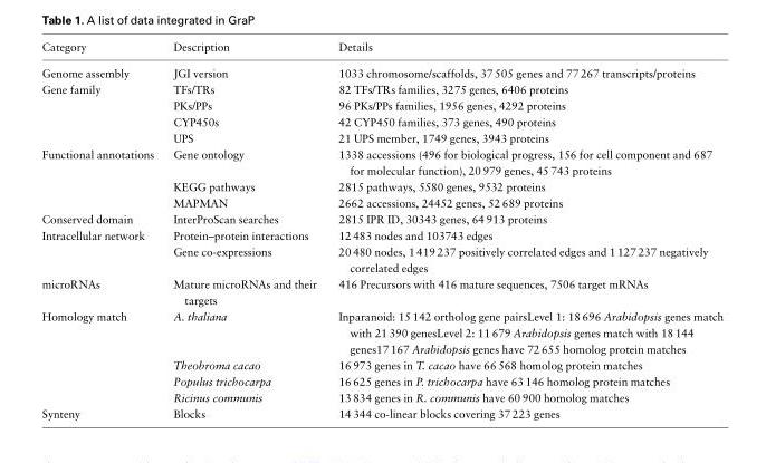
<table><thead><tr><td>Category</td><td>Description</td><td>Details</td></tr></thead><tbody><tr><td>Genome assembly</td><td>JGI version</td><td>1033 chromosome/scaffolds, 37 505 genes and 77 267 transcripts/proteins</td></tr><tr><td rowspan="4">Gene family</td><td>TFs/TRs</td><td>82 TFs/TRs families, 3275 genes, 6406 proteins</td></tr><tr><td>PKs/PPs</td><td>96 PKs/PPs families, 1956 genes, 4292 proteins</td></tr><tr><td>CYP450s</td><td>42 CYP450 families, 373 genes, 490 proteins</td></tr><tr><td>UPS</td><td>21 UPS member, 1749 genes, 3943 proteins</td></tr><tr><td rowspan="3">Functional annotations</td><td>Gene ontology</td><td>1338 accessions (496 for biological progress, 156 for cell component and 687 for molecular function), 20 979 genes, 45 743 proteins</td></tr><tr><td>KEGG pathways</td><td>2815 pathways, 5580 genes, 9532 proteins</td></tr><tr><td>MAPMAN</td><td>2662 accessions, 24452 genes, 52 689 proteins</td></tr><tr><td>Conserved domain</td><td>InterProScan searches</td><td>2815 IPR ID, 30343 genes, 64 913 proteins</td></tr><tr><td rowspan="2">Intracellular network</td><td>Protein–protein interactions</td><td>12 483 nodes and 103743 edges</td></tr><tr><td>Gene co-expressions</td><td>20 480 nodes, 1 419 237 positively correlated edges and 1 127 237 negatively correlated edges</td></tr><tr><td>microRNAs</td><td>Mature microRNAs and their targets</td><td>416 Precursors with 416 mature sequences, 7506 target mRNAs</td></tr><tr><td rowspan="4">Homology match</td><td>A. thaliana</td><td>Inparanoid: 15 142 ortholog gene pairsLevel 1: 18 696 Arabidopsis genes match with 21 390 genesLevel 2: 11 679 Arabidopsis genes match with 18 144 genes17 167 Arabidopsis genes have 72 655 homolog protein matches</td></tr><tr><td>Theobroma cacao</td><td>16 973 genes in T. cacao have 66 568 homolog protein matches</td></tr><tr><td>Populus trichocarpa</td><td>16 625 genes in P. trichocarpa have 63 146 homolog protein matches</td></tr><tr><td>Ricinus communis</td><td>13 834 genes in R. communis have 60 900 homolog matches</td></tr><tr><td>Synteny</td><td>Blocks</td><td>14 344 co-linear blocks covering 37 223 genes</td></tr></tbody></table>